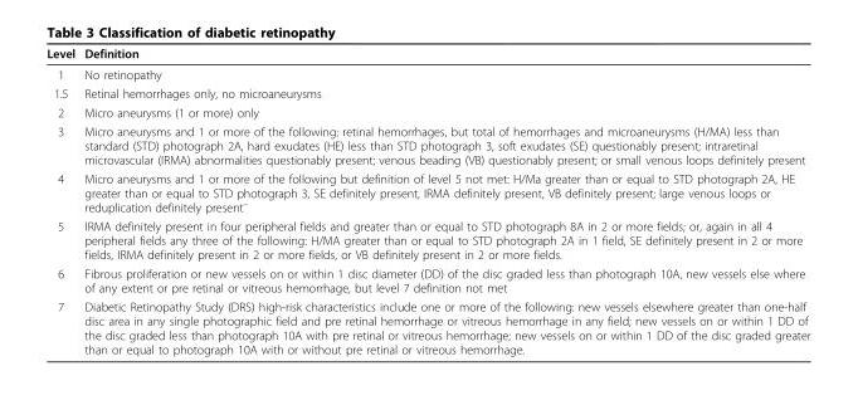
<table><thead><tr><td>Level</td><td>Definition</td></tr></thead><tbody><tr><td>1</td><td>No retinopathy</td></tr><tr><td>1.5</td><td>Retinal hemorrhages only, no microaneurysms</td></tr><tr><td>2</td><td>Micro aneurysms (1 or more) only</td></tr><tr><td>3</td><td>Micro aneurysms and 1 or more of the following: retinal hemorrhages, but total of hemorrhages and microaneurysms (H/MA) less than standard (STD) photograph 2A, hard exudates (HE) less than STD photograph 3, soft exudates (SE) questionably present; intraretinal microvascular (IRMA) abnormalities questionably present; venous beading (VB) questionably present; or small venous loops definitely present</td></tr><tr><td>4</td><td>Micro aneurysms and 1 or more of the following but definition of level 5 not met: H/Ma greater than or equal to STD photograph 2A, HE greater than or equal to STD photograph 3, SE definitely present, IRMA definitely present, VB definitely present; large venous loops or reduplication definitely present–</td></tr><tr><td>5</td><td>IRMA definitely present in four peripheral fields and greater than or equal to STD photograph 8A in 2 or more fields; or, again in all 4 peripheral fields any three of the following: H/MA greater than or equal to STD photograph 2A in 1 field, SE definitely present in 2 or more fields, IRMA definitely present in 2 or more fields, or VB definitely present in 2 or more fields.</td></tr><tr><td>6</td><td>Fibrous proliferation or new vessels on or within 1 disc diameter (DD) of the disc graded less than photograph 10A, new vessels else where of any extent or pre retinal or vitreous hemorrhage, but level 7 definition not met</td></tr><tr><td>7</td><td>Diabetic Retinopathy Study (DRS) high-risk characteristics include one or more of the following: new vessels elsewhere greater than one-half disc area in any single photographic field and pre retinal hemorrhage or vitreous hemorrhage in any field; new vessels on or within 1 DD of the disc graded less than photograph 10A with pre retinal or vitreous hemorrhage; new vessels on or within 1 DD of the disc graded greater than or equal to photograph 10A with or without pre retinal or vitreous hemorrhage.</td></tr></tbody></table>